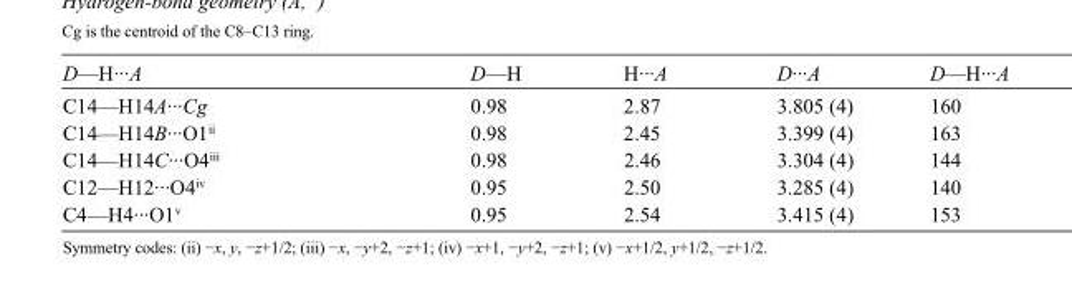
<table><tbody><tr><td>D—H···A</td><td>D—H</td><td>H···A</td><td>D···A</td><td>D—H···A</td></tr><tr><td>C14—H14A···Cg</td><td>0.98</td><td>2.87</td><td>3.805 (4)</td><td>160</td></tr><tr><td>C14—H14B···O1<sup>ii</sup></td><td>0.98</td><td>2.45</td><td>3.399 (4)</td><td>163</td></tr><tr><td>C14—H14C···O4<sup>iii</sup></td><td>0.98</td><td>2.46</td><td>3.304 (4)</td><td>144</td></tr><tr><td>C12—H12···O4<sup>iv</sup></td><td>0.95</td><td>2.50</td><td>3.285 (4)</td><td>140</td></tr><tr><td>C4—H4···O1<sup>v</sup></td><td>0.95</td><td>2.54</td><td>3.415 (4)</td><td>153</td></tr></tbody></table>